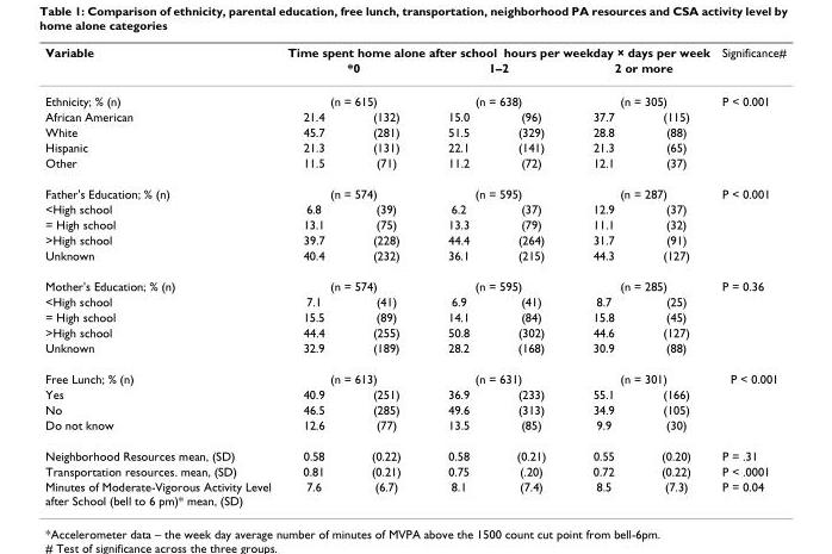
<table><thead><tr><td rowspan="4">Variable Ethnicity; % (n) African American</td><td colspan="6">Time spent home alone after school hours per weekday × days per week</td><td rowspan="4">Significance# P &lt; 0.001</td></tr><tr><td rowspan="2" colspan="2">*0 (n = 615)</td><td rowspan="2" colspan="2">1–2 (n = 638)</td><td rowspan="2" colspan="2">2 or more (n = 305)</td></tr><tr></tr><tr><td>21.4</td><td>(132)</td><td>15.0</td><td>(96)</td><td>37.7</td><td>(115)</td></tr></thead><tbody><tr><td>White</td><td>45.7</td><td>(281)</td><td>51.5</td><td>(329)</td><td>28.8</td><td>(88)</td><td></td></tr><tr><td>Hispanic</td><td>21.3</td><td>(131)</td><td>22.1</td><td>(141)</td><td>21.3</td><td>(65)</td><td></td></tr><tr><td>Other</td><td>11.5</td><td>(71)</td><td>11.2</td><td>(72)</td><td>12.1</td><td>(37)</td><td></td></tr><tr><td>Father&#x27;s Education; % (n)</td><td colspan="2">(n = 574)</td><td colspan="2">(n = 595)</td><td colspan="2">(n = 287)</td><td>P &lt; 0.001</td></tr><tr><td>&lt;High school</td><td>6.8</td><td>(39)</td><td>6.2</td><td>(37)</td><td>12.9</td><td>(37)</td><td></td></tr><tr><td>= High school</td><td>13.1</td><td>(75)</td><td>13.3</td><td>(79)</td><td>11.1</td><td>(32)</td><td></td></tr><tr><td>&gt;High school</td><td>39.7</td><td>(228)</td><td>44.4</td><td>(264)</td><td>31.7</td><td>(91)</td><td></td></tr><tr><td>Unknown</td><td>40.4</td><td>(232)</td><td>36.1</td><td>(215)</td><td>44.3</td><td>(127)</td><td></td></tr><tr><td>Mother&#x27;s Education; % (n)</td><td colspan="2">(n = 574)</td><td colspan="2">(n = 595)</td><td colspan="2">(n = 285)</td><td>P = 0.36</td></tr><tr><td>&lt;High school</td><td>7.1</td><td>(41)</td><td>6.9</td><td>(41)</td><td>8.7</td><td>(25)</td><td></td></tr><tr><td>= High school</td><td>15.5</td><td>(89)</td><td>14.1</td><td>(84)</td><td>15.8</td><td>(45)</td><td></td></tr><tr><td>&gt;High school</td><td>44.4</td><td>(255)</td><td>50.8</td><td>(302)</td><td>44.6</td><td>(127)</td><td></td></tr><tr><td>Unknown</td><td>32.9</td><td>(189)</td><td>28.2</td><td>(168)</td><td>30.9</td><td>(88)</td><td></td></tr><tr><td>Free Lunch; % (n)</td><td colspan="2">(n = 613)</td><td colspan="2">(n = 631)</td><td colspan="2">(n = 301)</td><td>P &lt; 0.001</td></tr><tr><td>Yes</td><td>40.9</td><td>(251)</td><td>36.9</td><td>(233)</td><td>55.1</td><td>(166)</td><td></td></tr><tr><td>No</td><td>46.5</td><td>(285)</td><td>49.6</td><td>(313)</td><td>34.9</td><td>(105)</td><td></td></tr><tr><td>Do not know</td><td>12.6</td><td>(77)</td><td>13.5</td><td>(85)</td><td>9.9</td><td>(30)</td><td></td></tr><tr><td>Neighborhood Resources mean, (SD)</td><td>0.58</td><td>(0.22)</td><td>0.58</td><td>(0.21)</td><td>0.55</td><td>(0.20)</td><td>P = .31</td></tr><tr><td>Transportation resources. mean, (SD)</td><td>0.81</td><td>(0.21)</td><td>0.75</td><td>(.20)</td><td>0.72</td><td>(0.22)</td><td>P &lt; .0001</td></tr><tr><td>Minutes of Moderate-Vigorous Activity Level after School (bell to 6 pm)* mean, (SD)</td><td>7.6</td><td>(6.7)</td><td>8.1</td><td>(7.4)</td><td>8.5</td><td>(7.3)</td><td>P = 0.04</td></tr></tbody></table>